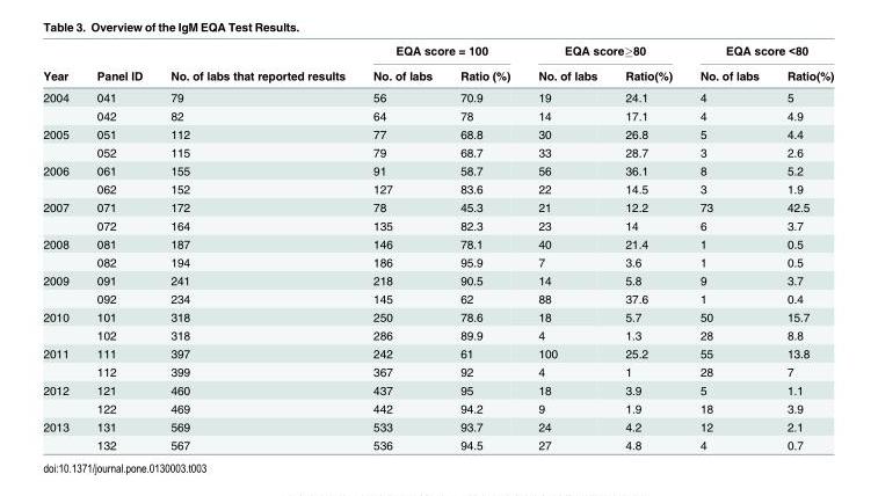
<table><thead><tr><td rowspan="2">Year</td><td rowspan="2">Panel ID</td><td rowspan="2">No. of labs that reported results</td><td colspan="2">EQA score = 100</td><td colspan="2">EQA score≥80</td><td colspan="2">EQA score &lt;80</td></tr><tr><td>No. of labs</td><td>Ratio (%)</td><td>No. of labs</td><td>Ratio(%)</td><td>No. of labs</td><td>Ratio(%)</td></tr></thead><tbody><tr><td rowspan="2">2004</td><td>041</td><td>79</td><td>56</td><td>70.9</td><td>19</td><td>24.1</td><td>4</td><td>5</td></tr><tr><td>042</td><td>82</td><td>64</td><td>78</td><td>14</td><td>17.1</td><td>4</td><td>4.9</td></tr><tr><td rowspan="2">2005</td><td>051</td><td>112</td><td>77</td><td>68.8</td><td>30</td><td>26.8</td><td>5</td><td>4.4</td></tr><tr><td>052</td><td>115</td><td>79</td><td>68.7</td><td>33</td><td>28.7</td><td>3</td><td>2.6</td></tr><tr><td rowspan="2">2006</td><td>061</td><td>155</td><td>91</td><td>58.7</td><td>56</td><td>36.1</td><td>8</td><td>5.2</td></tr><tr><td>062</td><td>152</td><td>127</td><td>83.6</td><td>22</td><td>14.5</td><td>3</td><td>1.9</td></tr><tr><td rowspan="2">2007</td><td>071</td><td>172</td><td>78</td><td>45.3</td><td>21</td><td>12.2</td><td>73</td><td>42.5</td></tr><tr><td>072</td><td>164</td><td>135</td><td>82.3</td><td>23</td><td>14</td><td>6</td><td>3.7</td></tr><tr><td rowspan="2">2008</td><td>081</td><td>187</td><td>146</td><td>78.1</td><td>40</td><td>21.4</td><td>1</td><td>0.5</td></tr><tr><td>082</td><td>194</td><td>186</td><td>95.9</td><td>7</td><td>3.6</td><td>1</td><td>0.5</td></tr><tr><td rowspan="2">2009</td><td>091</td><td>241</td><td>218</td><td>90.5</td><td>14</td><td>5.8</td><td>9</td><td>3.7</td></tr><tr><td>092</td><td>234</td><td>145</td><td>62</td><td>88</td><td>37.6</td><td>1</td><td>0.4</td></tr><tr><td rowspan="2">2010</td><td>101</td><td>318</td><td>250</td><td>78.6</td><td>18</td><td>5.7</td><td>50</td><td>15.7</td></tr><tr><td>102</td><td>318</td><td>286</td><td>89.9</td><td>4</td><td>1.3</td><td>28</td><td>8.8</td></tr><tr><td rowspan="2">2011</td><td>111</td><td>397</td><td>242</td><td>61</td><td>100</td><td>25.2</td><td>55</td><td>13.8</td></tr><tr><td>112</td><td>399</td><td>367</td><td>92</td><td>4</td><td>1</td><td>28</td><td>7</td></tr><tr><td rowspan="2">2012</td><td>121</td><td>460</td><td>437</td><td>95</td><td>18</td><td>3.9</td><td>5</td><td>1.1</td></tr><tr><td>122</td><td>469</td><td>442</td><td>94.2</td><td>9</td><td>1.9</td><td>18</td><td>3.9</td></tr><tr><td rowspan="2">2013</td><td>131</td><td>569</td><td>533</td><td>93.7</td><td>24</td><td>4.2</td><td>12</td><td>2.1</td></tr><tr><td>132</td><td>567</td><td>536</td><td>94.5</td><td>27</td><td>4.8</td><td>4</td><td>0.7</td></tr></tbody></table>